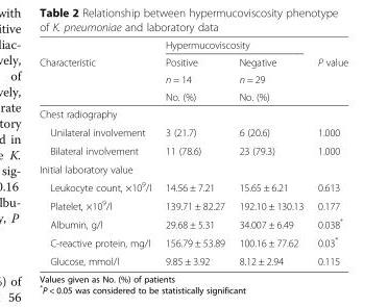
<table><thead><tr><td rowspan="4">Characteristic</td><td colspan="2">Hypermucoviscosity</td><td rowspan="4">P value</td></tr><tr><td rowspan="3">Positive n = 14 No. (%)</td><td rowspan="3">Negative n = 29 No. (%)</td></tr><tr></tr><tr></tr></thead><tbody><tr><td colspan="4">Chest radiography</td></tr><tr><td>Unilateral involvement</td><td>3 (21.7)</td><td>6 (20.6)</td><td>1.000</td></tr><tr><td>Bilateral involvement</td><td>11 (78.6)</td><td>23 (79.3)</td><td>1.000</td></tr><tr><td colspan="4">Initial laboratory value</td></tr><tr><td>Leukocyte count, ×10<sup>9</sup>/l</td><td>14.56 ± 7.21</td><td>15.65 ± 6.21</td><td>0.613</td></tr><tr><td>Platelet, ×10<sup>9</sup>/l</td><td>139.71 ± 82.27</td><td>192.10 ± 130.13</td><td>0.177</td></tr><tr><td>Albumin, g/l</td><td>29.68 ± 5.31</td><td>34.007 ± 6.49</td><td>0.038*</td></tr><tr><td>C-reactive protein, mg/l</td><td>156.79 ± 53.89</td><td>100.16 ± 77.62</td><td>0.03*</td></tr><tr><td>Glucose, mmol/l</td><td>9.85 ± 3.92</td><td>8.12 ± 2.94</td><td>0.115</td></tr></tbody></table>